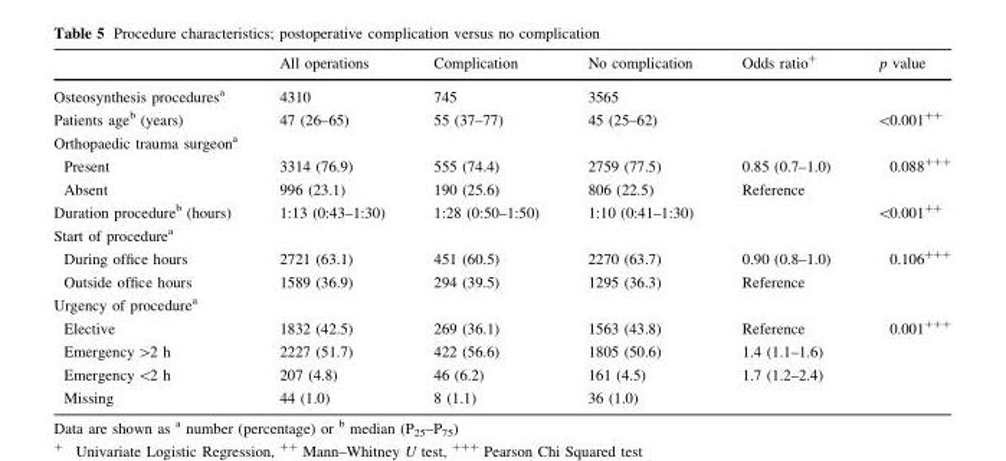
<table><thead><tr><td></td><td>All operations</td><td>Complication</td><td>No complication</td><td>Odds ratio<sup>+</sup></td><td>p value</td></tr></thead><tbody><tr><td>Osteosynthesis procedures<sup>a</sup></td><td>4310</td><td>745</td><td>3565</td><td></td><td></td></tr><tr><td>Patients age<sup>b</sup> (years)</td><td>47 (26–65)</td><td>55 (37–77)</td><td>45 (25–62)</td><td></td><td>&lt;0.001<sup>++</sup></td></tr><tr><td colspan="6">Orthopaedic trauma surgeon<sup>a</sup></td></tr><tr><td>Present</td><td>3314 (76.9)</td><td>555 (74.4)</td><td>2759 (77.5)</td><td>0.85 (0.7–1.0)</td><td rowspan="2">0.088<sup>+++</sup></td></tr><tr><td>Absent</td><td>996 (23.1)</td><td>190 (25.6)</td><td>806 (22.5)</td><td>Reference</td></tr><tr><td>Duration procedure<sup>b</sup> (hours)</td><td>1:13 (0:43–1:30)</td><td>1:28 (0:50–1:50)</td><td>1:10 (0:41–1:30)</td><td></td><td>&lt;0.001<sup>++</sup></td></tr><tr><td colspan="6">Start of procedure<sup>a</sup></td></tr><tr><td>During office hours</td><td>2721 (63.1)</td><td>451 (60.5)</td><td>2270 (63.7)</td><td>0.90 (0.8–1.0)</td><td rowspan="2">0.106<sup>+++</sup></td></tr><tr><td>Outside office hours</td><td>1589 (36.9)</td><td>294 (39.5)</td><td>1295 (36.3)</td><td>Reference</td></tr><tr><td colspan="6">Urgency of procedure<sup>a</sup></td></tr><tr><td>Elective</td><td>1832 (42.5)</td><td>269 (36.1)</td><td>1563 (43.8)</td><td>Reference</td><td rowspan="4">0.001<sup>+++</sup></td></tr><tr><td>Emergency &gt;2 h</td><td>2227 (51.7)</td><td>422 (56.6)</td><td>1805 (50.6)</td><td>1.4 (1.1–1.6)</td></tr><tr><td>Emergency &lt;2 h</td><td>207 (4.8)</td><td>46 (6.2)</td><td>161 (4.5)</td><td rowspan="2">1.7 (1.2–2.4)</td></tr><tr><td>Missing</td><td>44 (1.0)</td><td>8 (1.1)</td><td>36 (1.0)</td></tr></tbody></table>